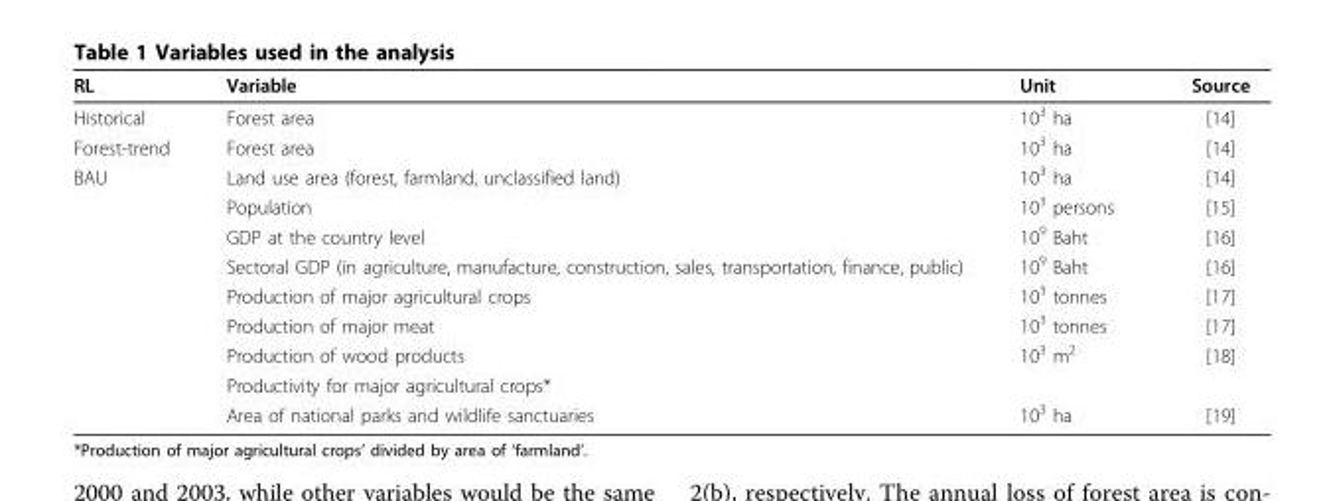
<table><thead><tr><td>RL</td><td>Variable</td><td>Unit</td><td>Source</td></tr></thead><tbody><tr><td>Historical</td><td>Forest area</td><td>10<sup>3</sup> ha</td><td>[14]</td></tr><tr><td>Forest-trend</td><td>Forest area</td><td>10<sup>3</sup> ha</td><td>[14]</td></tr><tr><td rowspan="9">BAU</td><td>Land use area (forest, farmland, unclassified land)</td><td>10<sup>3</sup> ha</td><td>[14]</td></tr><tr><td>Population</td><td>10<sup>3</sup> persons</td><td>[15]</td></tr><tr><td>GDP at the country level</td><td>10<sup>9</sup> Baht</td><td>[16]</td></tr><tr><td>Sectoral GDP (in agriculture, manufacture, construction, sales, transportation, finance, public)</td><td>10<sup>9</sup> Baht</td><td>[16]</td></tr><tr><td>Production of major agricultural crops</td><td>10<sup>3</sup> tonnes</td><td>[17]</td></tr><tr><td>Production of major meat</td><td>10<sup>3</sup> tonnes</td><td>[17]</td></tr><tr><td>Production of wood products</td><td>10<sup>3</sup> m<sup>2</sup></td><td>[18]</td></tr><tr><td>Productivity for major agricultural crops*</td><td></td><td></td></tr><tr><td>Area of national parks and wildlife sanctuaries</td><td>10<sup>3</sup> ha</td><td>[19]</td></tr></tbody></table>